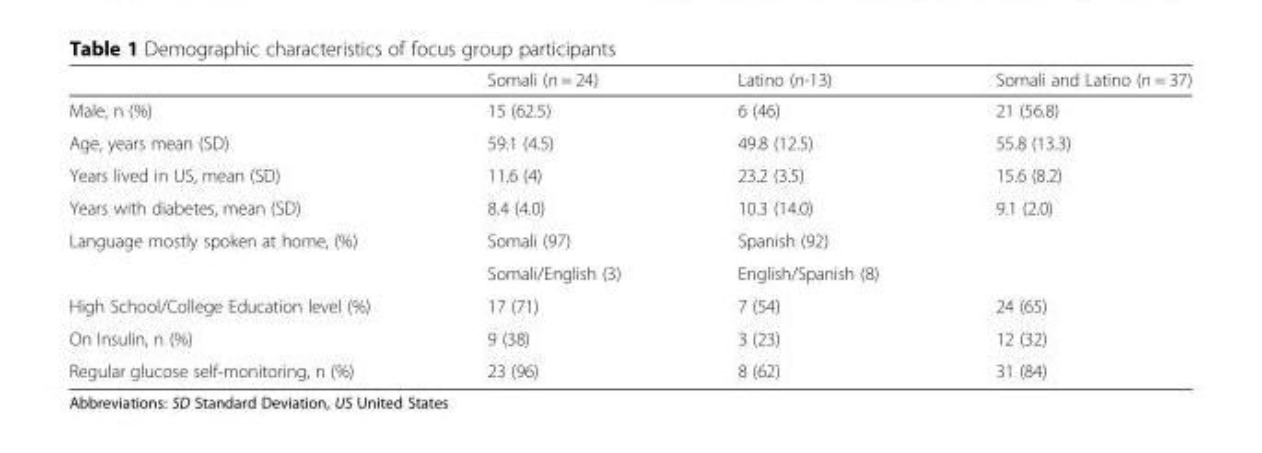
<table><thead><tr><td></td><td>Somali (n = 24)</td><td>Latino (n-13)</td><td>Somali and Latino (n = 37)</td></tr></thead><tbody><tr><td>Male, n (%)</td><td>15 (62.5)</td><td>6 (46)</td><td>21 (56.8)</td></tr><tr><td>Age, years mean (SD)</td><td>59.1 (4.5)</td><td>49.8 (12.5)</td><td>55.8 (13.3)</td></tr><tr><td>Years lived in US, mean (SD)</td><td>11.6 (4)</td><td>23.2 (3.5)</td><td>15.6 (8.2)</td></tr><tr><td>Years with diabetes, mean (SD)</td><td>8.4 (4.0)</td><td>10.3 (14.0)</td><td>9.1 (2.0)</td></tr><tr><td rowspan="2">Language mostly spoken at home, (%)</td><td>Somali (97)</td><td>Spanish (92)</td><td></td></tr><tr><td>Somali/English (3)</td><td>English/Spanish (8)</td><td></td></tr><tr><td>High School/College Education level (%)</td><td>17 (71)</td><td>7 (54)</td><td>24 (65)</td></tr><tr><td>On Insulin, n (%)</td><td>9 (38)</td><td>3 (23)</td><td>12 (32)</td></tr><tr><td>Regular glucose self-monitoring, n (%)</td><td>23 (96)</td><td>8 (62)</td><td>31 (84)</td></tr></tbody></table>